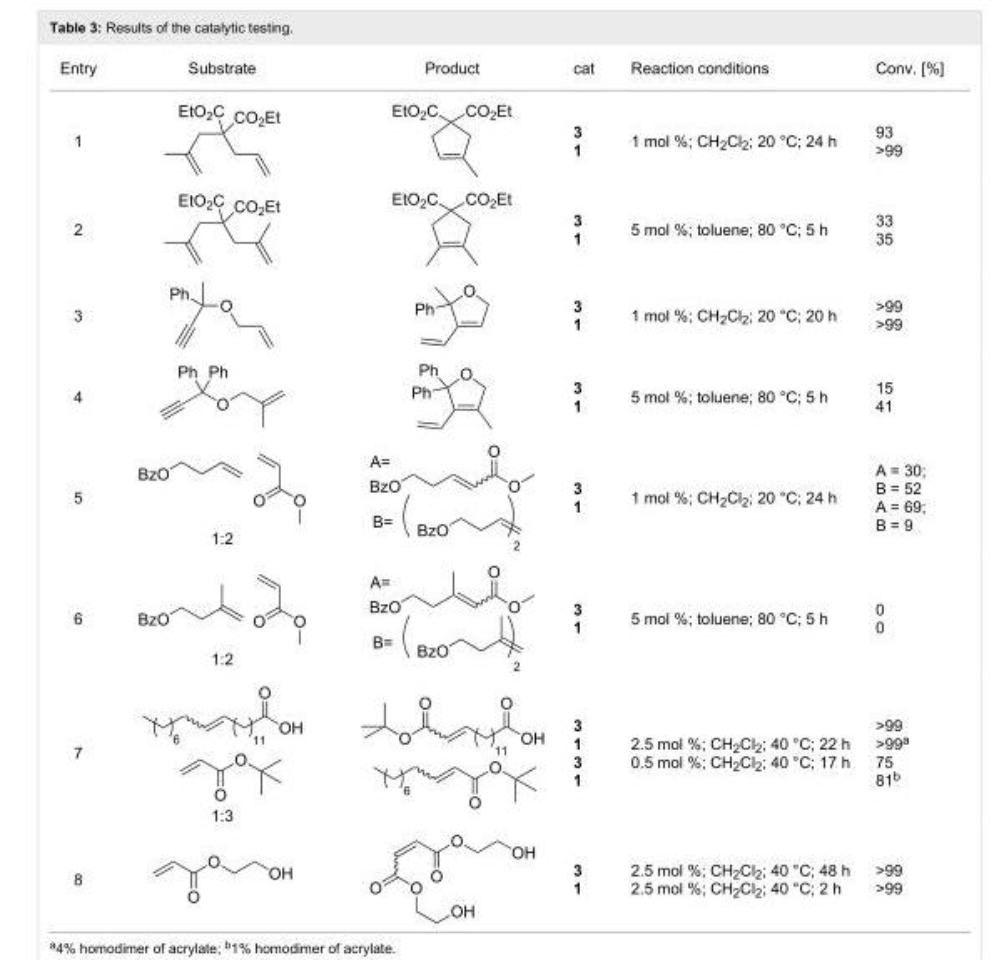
<table><tbody><tr><td>Entry</td><td>Substrate</td><td>Product</td><td>cat</td><td>Reaction conditions</td><td>Conv. [%]</td></tr><tr><td>1</td><td></td><td></td><td>3 1</td><td>1 mol %; CH<sub>2</sub>Cl<sub>2</sub>; 20 °C; 24 h</td><td>93 &gt;99</td></tr><tr><td>2</td><td></td><td></td><td>3 1</td><td>5 mol %; toluene; 80 °C; 5 h</td><td>33 35</td></tr><tr><td>3</td><td></td><td></td><td>3 1</td><td>1 mol %; CH<sub>2</sub>Cl<sub>2</sub>; 20 °C; 20 h</td><td>&gt;99 &gt;99</td></tr><tr><td>4</td><td></td><td></td><td>3 1</td><td>5 mol %; toluene; 80 °C; 5 h</td><td>15 41</td></tr><tr><td>5</td><td>1:2</td><td></td><td>3 1</td><td>1 mol %; CH<sub>2</sub>Cl<sub>2</sub>; 20 °C; 24 h</td><td>A = 30; B = 52 A = 69; B = 9</td></tr><tr><td>6</td><td>1:2</td><td></td><td>3 1</td><td>5 mol %; toluene; 80 °C; 5 h</td><td>0 0</td></tr><tr><td>7</td><td>1:3</td><td></td><td>3 1 3 1</td><td>2.5 mol %; CH<sub>2</sub>Cl<sub>2</sub>; 40 °C; 22 h 0.5 mol %; CH<sub>2</sub>Cl<sub>2</sub>; 40 °C; 17 h</td><td>&gt;99 &gt;99<sup>a</sup> 75 81<sup>b</sup></td></tr><tr><td>8</td><td></td><td></td><td>3 1</td><td>2.5 mol %; CH<sub>2</sub>Cl<sub>2</sub>; 40 °C; 48 h 2.5 mol %; CH<sub>2</sub>Cl<sub>2</sub>; 40 °C; 2 h</td><td>&gt;99 &gt;99</td></tr></tbody></table>